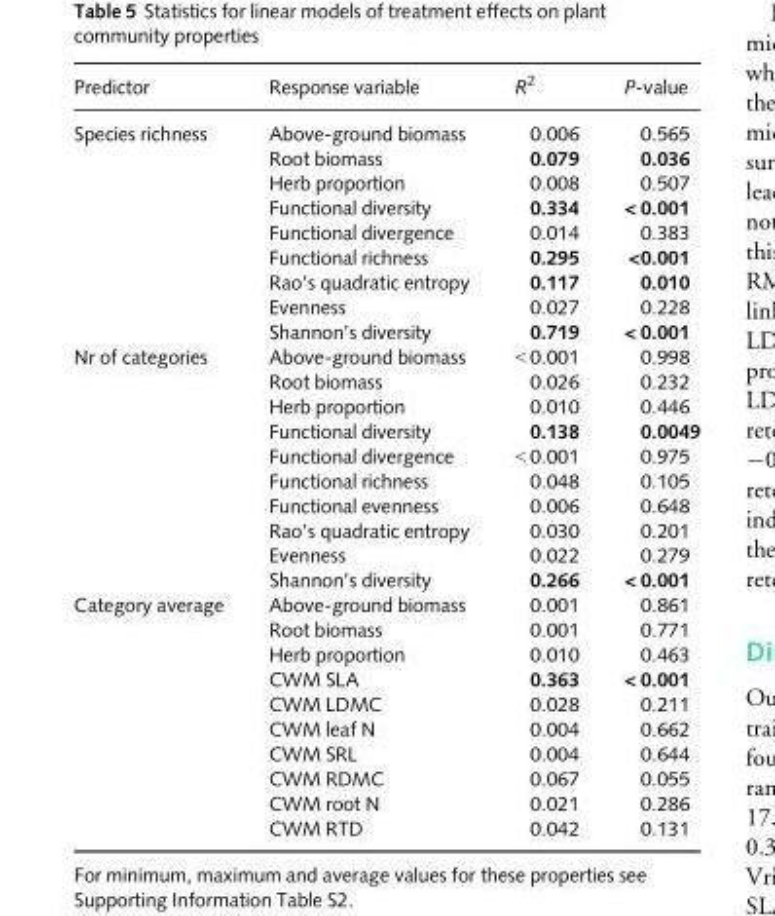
<table><thead><tr><td>Predictor</td><td>Response variable</td><td>R<sup>2</sup></td><td>P-value</td></tr></thead><tbody><tr><td rowspan="9">Species richness</td><td>Above-ground biomass</td><td>0.006</td><td>0.565</td></tr><tr><td>Root biomass</td><td>0.079</td><td>0.036</td></tr><tr><td>Herb proportion</td><td>0.008</td><td>0.507</td></tr><tr><td>Functional diversity</td><td>0.334</td><td>&lt; 0.001</td></tr><tr><td>Functional divergence</td><td>0.014</td><td>0.383</td></tr><tr><td>Functional richness</td><td>0.295</td><td>&lt;0.001</td></tr><tr><td>Rao’s quadratic entropy</td><td>0.117</td><td>0.010</td></tr><tr><td>Evenness</td><td>0.027</td><td>0.228</td></tr><tr><td>Shannon’s diversity</td><td>0.719</td><td>&lt; 0.001</td></tr><tr><td rowspan="10">Nr of categories</td><td>Above-ground biomass</td><td>&lt; 0.001</td><td>0.998</td></tr><tr><td>Root biomass</td><td>0.026</td><td>0.232</td></tr><tr><td>Herb proportion</td><td>0.010</td><td>0.446</td></tr><tr><td>Functional diversity</td><td>0.138</td><td>0.0049</td></tr><tr><td>Functional divergence</td><td>&lt; 0.001</td><td>0.975</td></tr><tr><td>Functional richness</td><td>0.048</td><td>0.105</td></tr><tr><td>Functional evenness</td><td>0.006</td><td>0.648</td></tr><tr><td>Rao’s quadratic entropy</td><td>0.030</td><td>0.201</td></tr><tr><td>Evenness</td><td>0.022</td><td>0.279</td></tr><tr><td>Shannon’s diversity</td><td>0.266</td><td>&lt; 0.001</td></tr><tr><td rowspan="10">Category average</td><td>Above-ground biomass</td><td>0.001</td><td>0.861</td></tr><tr><td>Root biomass</td><td>0.001</td><td>0.771</td></tr><tr><td>Herb proportion</td><td>0.010</td><td>0.463</td></tr><tr><td>CWM SLA</td><td>0.363</td><td>&lt; 0.001</td></tr><tr><td>CWM LDMC</td><td>0.028</td><td>0.211</td></tr><tr><td>CWM leaf N</td><td>0.004</td><td>0.662</td></tr><tr><td>CWM SRL</td><td>0.004</td><td>0.644</td></tr><tr><td>CWM RDMC</td><td>0.067</td><td>0.055</td></tr><tr><td>CWM root N</td><td>0.021</td><td>0.286</td></tr><tr><td>CWM RTD</td><td>0.042</td><td>0.131</td></tr></tbody></table>